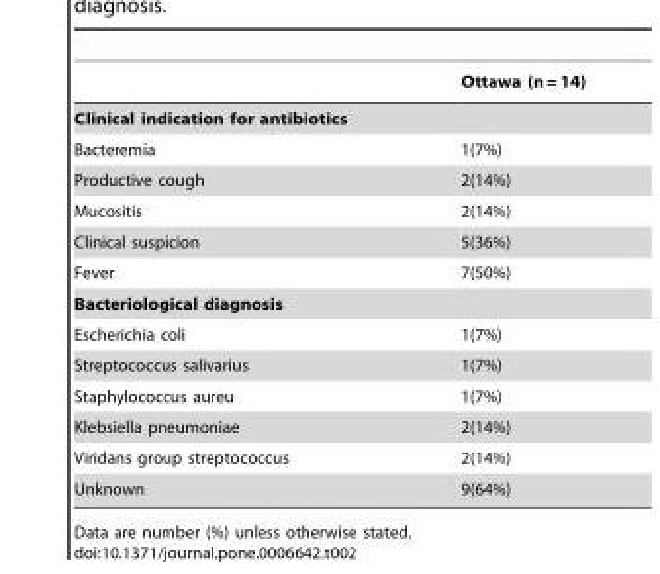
<table><thead><tr><td></td><td>Ottawa (n = 14)</td></tr></thead><tbody><tr><td colspan="2">Clinical indication for antibiotics</td></tr><tr><td>Bacteremia</td><td>1(7%)</td></tr><tr><td>Productive cough</td><td>2(14%)</td></tr><tr><td>Mucositis</td><td>2(14%)</td></tr><tr><td>Clinical suspicion</td><td>5(36%)</td></tr><tr><td>Fever</td><td>7(50%)</td></tr><tr><td colspan="2">Bacteriological diagnosis</td></tr><tr><td>Escherichia coli</td><td>1(7%)</td></tr><tr><td>Streptococcus salivarius</td><td>1(7%)</td></tr><tr><td>Staphylococcus aureu</td><td>1(7%)</td></tr><tr><td>Klebsiella pneumoniae</td><td>2(14%)</td></tr><tr><td>Viridans group streptococcus</td><td>2(14%)</td></tr><tr><td>Unknown</td><td>9(64%)</td></tr></tbody></table>